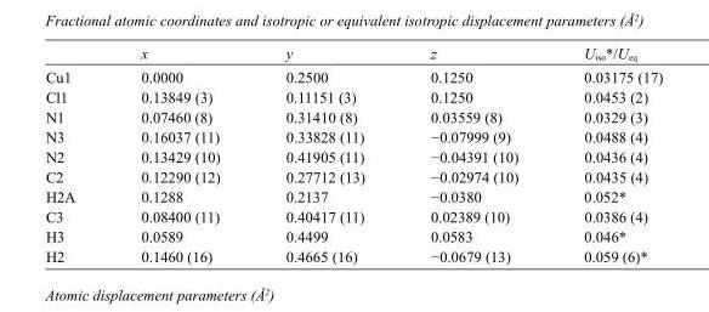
<table><thead><tr><td></td><td>x</td><td>y</td><td>z</td><td>U<sub>iso</sub>*/U<sub>eq</sub></td></tr></thead><tbody><tr><td>Cu1</td><td>0.0000</td><td>0.2500</td><td>0.1250</td><td>0.03175 (17)</td></tr><tr><td>Cl1</td><td>0.13849 (3)</td><td>0.11151 (3)</td><td>0.1250</td><td>0.0453 (2)</td></tr><tr><td>N1</td><td>0.07460 (8)</td><td>0.31410 (8)</td><td>0.03559 (8)</td><td>0.0329 (3)</td></tr><tr><td>N3</td><td>0.16037 (11)</td><td>0.33828 (11)</td><td>−0.07999 (9)</td><td>0.0488 (4)</td></tr><tr><td>N2</td><td>0.13429 (10)</td><td>0.41905 (11)</td><td>−0.04391 (10)</td><td>0.0436 (4)</td></tr><tr><td>C2</td><td>0.12290 (12)</td><td>0.27712 (13)</td><td>−0.02974 (10)</td><td>0.0435 (4)</td></tr><tr><td>H2A</td><td>0.1288</td><td>0.2137</td><td>−0.0380</td><td>0.052*</td></tr><tr><td>C3</td><td>0.08400 (11)</td><td>0.40417 (11)</td><td>0.02389 (10)</td><td>0.0386 (4)</td></tr><tr><td>H3</td><td>0.0589</td><td>0.4499</td><td>0.0583</td><td>0.046*</td></tr><tr><td>H2</td><td>0.1460 (16)</td><td>0.4665 (16)</td><td>−0.0679 (13)</td><td>0.059 (6)*</td></tr></tbody></table>